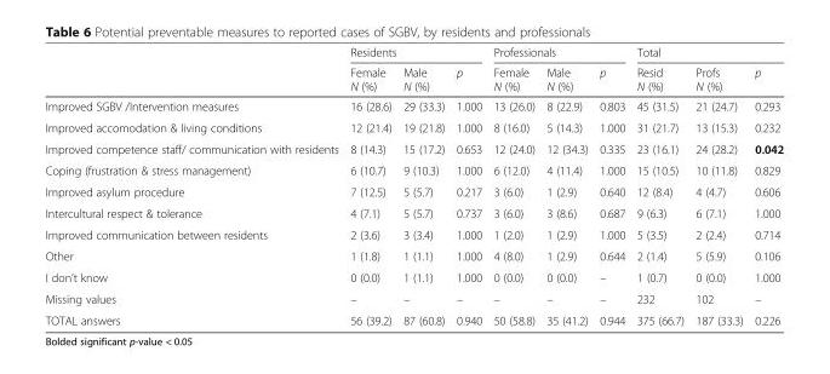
<table><thead><tr><td rowspan="2"></td><td colspan="3">Residents</td><td colspan="3">Professionals</td><td colspan="3">Total</td></tr><tr><td>Female N (%)</td><td>Male N (%)</td><td>p</td><td>Female N (%)</td><td>Male N (%)</td><td>p</td><td>Resid N (%)</td><td>Profs N (%)</td><td>p</td></tr></thead><tbody><tr><td>Improved SGBV /Intervention measures</td><td>16 (28.6)</td><td>29 (33.3)</td><td>1.000</td><td>13 (26.0)</td><td>8 (22.9)</td><td>0.803</td><td>45 (31.5)</td><td>21 (24.7)</td><td>0.293</td></tr><tr><td>Improved accomodation &amp; living conditions</td><td>12 (21.4)</td><td>19 (21.8)</td><td>1.000</td><td>8 (16.0)</td><td>5 (14.3)</td><td>1.000</td><td>31 (21.7)</td><td>13 (15.3)</td><td>0.232</td></tr><tr><td>Improved competence staff/ communication with residents</td><td>8 (14.3)</td><td>15 (17.2)</td><td>0.653</td><td>12 (24.0)</td><td>12 (34.3)</td><td>0.335</td><td>23 (16.1)</td><td>24 (28.2)</td><td>0.042</td></tr><tr><td>Coping (frustration &amp; stress management)</td><td>6 (10.7)</td><td>9 (10.3)</td><td>1.000</td><td>6 (12.0)</td><td>4 (11.4)</td><td>1.000</td><td>15 (10.5)</td><td>10 (11.8)</td><td>0.829</td></tr><tr><td>Improved asylum procedure</td><td>7 (12.5)</td><td>5 (5.7)</td><td>0.217</td><td>3 (6.0)</td><td>1 (2.9)</td><td>0.640</td><td>12 (8.4)</td><td>4 (4.7)</td><td>0.606</td></tr><tr><td>Intercultural respect &amp; tolerance</td><td>4 (7.1)</td><td>5 (5.7)</td><td>0.737</td><td>3 (6.0)</td><td>3 (8.6)</td><td>0.687</td><td>9 (6.3)</td><td>6 (7.1)</td><td>1.000</td></tr><tr><td>Improved communication between residents</td><td>2 (3.6)</td><td>3 (3.4)</td><td>1.000</td><td>1 (2.0)</td><td>1 (2.9)</td><td>1.000</td><td>5 (3.5)</td><td>2 (2.4)</td><td>0.714</td></tr><tr><td>Other</td><td>1 (1.8)</td><td>1 (1.1)</td><td>1.000</td><td>4 (8.0)</td><td>1 (2.9)</td><td>0.644</td><td>2 (1.4)</td><td>5 (5.9)</td><td>0.106</td></tr><tr><td>I don’t know</td><td>0 (0.0)</td><td>1 (1.1)</td><td>1.000</td><td>0 (0.0)</td><td>0 (0.0)</td><td>–</td><td>1 (0.7)</td><td>0 (0.0)</td><td>1.000</td></tr><tr><td>Missing values</td><td>–</td><td>–</td><td>–</td><td>–</td><td>–</td><td>–</td><td>232</td><td>102</td><td>–</td></tr><tr><td>TOTAL answers</td><td>56 (39.2)</td><td>87 (60.8)</td><td>0.940</td><td>50 (58.8)</td><td>35 (41.2)</td><td>0.944</td><td>375 (66.7)</td><td>187 (33.3)</td><td>0.226</td></tr></tbody></table>